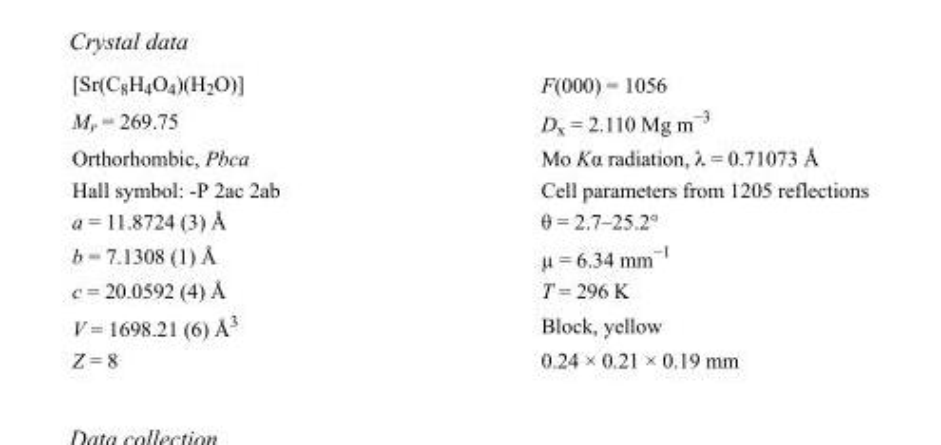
<table><tbody><tr><td>[Sr(C<sub>8</sub>H<sub>4</sub>O<sub>4</sub>)(H<sub>2</sub>O)]</td><td>F(000) = 1056</td></tr><tr><td>M<sub>r</sub> = 269.75</td><td>D<sub>x</sub> = 2.110 Mg m<sup>−3</sup></td></tr><tr><td>Orthorhombic, Pbca</td><td>Mo Kα radiation, λ = 0.71073 Å</td></tr><tr><td>Hall symbol: -P 2ac 2ab</td><td>Cell parameters from 1205 reflections</td></tr><tr><td>a = 11.8724 (3) Å</td><td>θ = 2.7–25.2°</td></tr><tr><td>b = 7.1308 (1) Å</td><td>µ = 6.34 mm<sup>−1</sup></td></tr><tr><td>c = 20.0592 (4) Å</td><td>T = 296 K</td></tr><tr><td>V = 1698.21 (6) Å<sup>3</sup></td><td>Block, yellow</td></tr><tr><td>Z = 8</td><td>0.24 × 0.21 × 0.19 mm</td></tr></tbody></table>